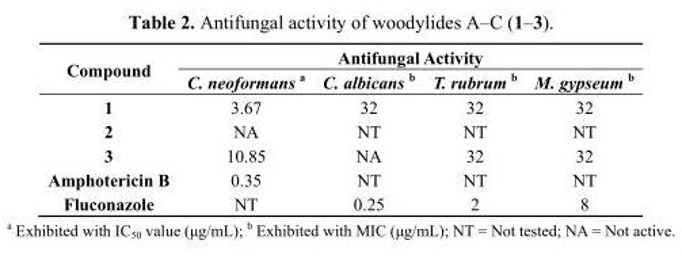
<table><thead><tr><td rowspan="2">Compound</td><td colspan="4">Antifungal Activity</td></tr><tr><td>C. neoformans <sup>a</sup></td><td>C. albicans <sup>b</sup></td><td>T. rubrum <sup>b</sup></td><td>M. gypseum <sup>b</sup></td></tr></thead><tbody><tr><td>1</td><td>3.67</td><td>32</td><td>32</td><td>32</td></tr><tr><td>2</td><td>NA</td><td>NT</td><td>NT</td><td>NT</td></tr><tr><td>3</td><td>10.85</td><td>NA</td><td>32</td><td>32</td></tr><tr><td>Amphotericin B</td><td>0.35</td><td>NT</td><td>NT</td><td>NT</td></tr><tr><td>Fluconazole</td><td>NT</td><td>0.25</td><td>2</td><td>8</td></tr></tbody></table>